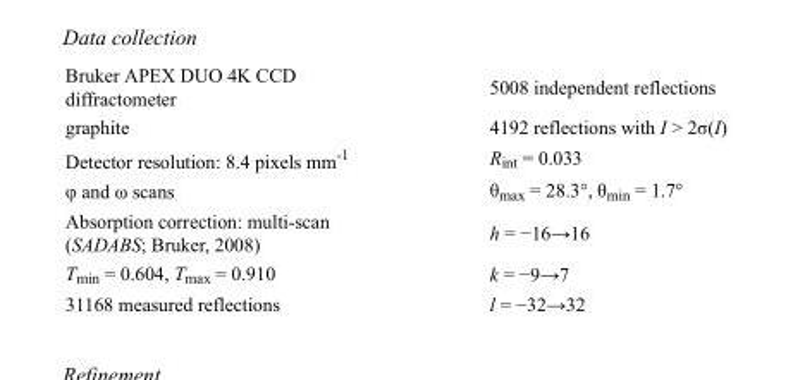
<table><tbody><tr><td>Bruker APEX DUO 4K CCD diffractometer</td><td>5008 independent reflections</td></tr><tr><td>graphite</td><td>4192 reflections with I &gt; 2σ(I)</td></tr><tr><td>Detector resolution: 8.4 pixels mm<sup>-1</sup></td><td>R<sub>int</sub> = 0.033</td></tr><tr><td>φ and ω scans</td><td>θ<sub>max</sub> = 28.3°, θ<sub>min</sub> = 1.7°</td></tr><tr><td>Absorption correction: multi-scan (SADABS; Bruker, 2008)</td><td>h = −16→16</td></tr><tr><td>T<sub>min</sub> = 0.604, T<sub>max</sub> = 0.910</td><td>k = −9→7</td></tr><tr><td>31168 measured reflections</td><td>l = −32→32</td></tr></tbody></table>